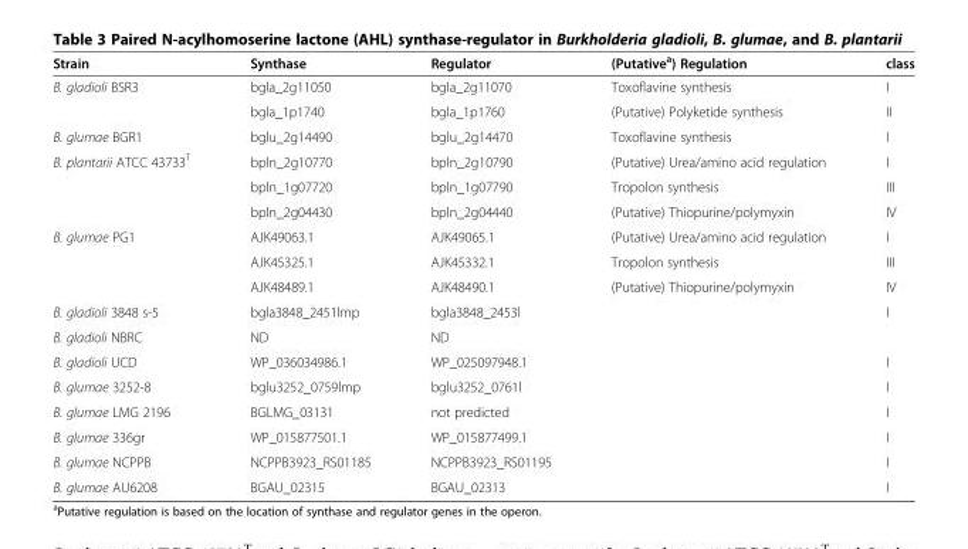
<table><thead><tr><td>Strain</td><td>Synthase</td><td>Regulator</td><td>(Putative<sup>a</sup>) Regulation</td><td>class</td></tr></thead><tbody><tr><td rowspan="2">B. gladioli BSR3</td><td>bgla_2g11050</td><td>bgla_2g11070</td><td>Toxoflavine synthesis</td><td>I</td></tr><tr><td>bgla_1p1740</td><td>bgla_1p1760</td><td>(Putative) Polyketide synthesis</td><td>II</td></tr><tr><td>B. glumae BGR1</td><td>bglu_2g14490</td><td>bglu_2g14470</td><td>Toxoflavine synthesis</td><td>I</td></tr><tr><td rowspan="3">B. plantarii ATCC 43733<sup>T</sup></td><td>bpln_2g10770</td><td>bpln_2g10790</td><td>(Putative) Urea/amino acid regulation</td><td>I</td></tr><tr><td>bpln_1g07720</td><td>bpln_1g07790</td><td>Tropolon synthesis</td><td>III</td></tr><tr><td>bpln_2g04430</td><td>bpln_2g04440</td><td>(Putative) Thiopurine/polymyxin</td><td>IV</td></tr><tr><td rowspan="3">B. glumae PG1</td><td>AJK49063.1</td><td>AJK49065.1</td><td>(Putative) Urea/amino acid regulation</td><td>I</td></tr><tr><td>AJK45325.1</td><td>AJK45332.1</td><td>Tropolon synthesis</td><td>III</td></tr><tr><td>AJK48489.1</td><td>AJK48490.1</td><td>(Putative) Thiopurine/polymyxin</td><td>IV</td></tr><tr><td>B. gladioli 3848 s-5</td><td>bgla3848_2451lmp</td><td>bgla3848_2453l</td><td></td><td>I</td></tr><tr><td>B. gladioli NBRC</td><td>ND</td><td>ND</td><td></td><td></td></tr><tr><td>B. gladioli UCD</td><td>WP_036034986.1</td><td>WP_025097948.1</td><td></td><td>I</td></tr><tr><td>B. glumae 3252-8</td><td>bglu3252_0759lmp</td><td>bglu3252_0761l</td><td></td><td>I</td></tr><tr><td>B. glumae LMG 2196</td><td>BGLMG_03131</td><td>not predicted</td><td></td><td>I</td></tr><tr><td>B. glumae 336gr</td><td>WP_015877501.1</td><td>WP_015877499.1</td><td></td><td>I</td></tr><tr><td>B. glumae NCPPB</td><td>NCPPB3923_RS01185</td><td>NCPPB3923_RS01195</td><td></td><td>I</td></tr><tr><td>B. glumae AU6208</td><td>BGAU_02315</td><td>BGAU_02313</td><td></td><td>I</td></tr></tbody></table>